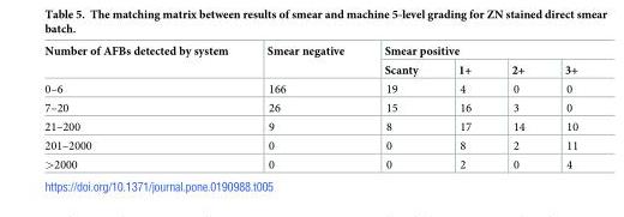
<table><thead><tr><td rowspan="2">Number of AFBs detected by system</td><td rowspan="2">Smear negative</td><td colspan="4">Smear positive</td></tr><tr><td>Scanty</td><td>1+</td><td>2+</td><td>3+</td></tr></thead><tbody><tr><td>0–6</td><td>166</td><td>19</td><td>4</td><td>0</td><td>0</td></tr><tr><td>7–20</td><td>26</td><td>15</td><td>16</td><td>3</td><td>0</td></tr><tr><td>21–200</td><td>9</td><td>8</td><td>17</td><td>14</td><td>10</td></tr><tr><td>201–2000</td><td>0</td><td>0</td><td>8</td><td>2</td><td>11</td></tr><tr><td>&gt;2000</td><td>0</td><td>0</td><td>2</td><td>0</td><td>4</td></tr></tbody></table>